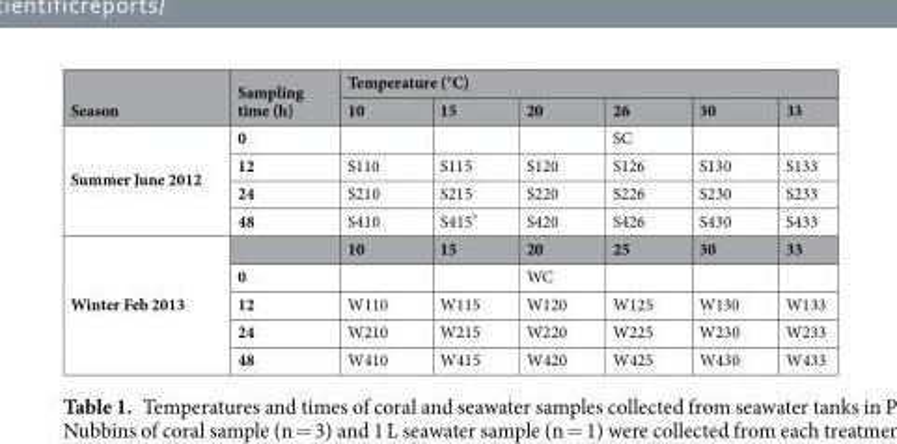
<table><thead><tr><td rowspan="2">Season</td><td rowspan="2">Sampling time (h)</td><td colspan="6">Temperature (°C)</td></tr><tr><td>10</td><td>15</td><td>20</td><td>26</td><td>30</td><td>33</td></tr></thead><tbody><tr><td rowspan="4">Summer June 2012</td><td>0</td><td></td><td></td><td></td><td>SC</td><td></td><td></td></tr><tr><td>12</td><td>S110</td><td>S115</td><td>S120</td><td>S126</td><td>S130</td><td>S133</td></tr><tr><td>24</td><td>S210</td><td>S215</td><td>S220</td><td>S226</td><td>S230</td><td>S233</td></tr><tr><td>48</td><td>S410</td><td>S415*</td><td>S420</td><td>S426</td><td>S430</td><td>S433</td></tr><tr><td rowspan="5">Winter Feb 2013</td><td></td><td>10</td><td>15</td><td>20</td><td>25</td><td>30</td><td>33</td></tr><tr><td>0</td><td></td><td></td><td>WC</td><td></td><td></td><td></td></tr><tr><td>12</td><td>W110</td><td>W115</td><td>W120</td><td>W125</td><td>W130</td><td>W133</td></tr><tr><td>24</td><td>W210</td><td>W215</td><td>W220</td><td>W225</td><td>W230</td><td>W233</td></tr><tr><td>48</td><td>W410</td><td>W415</td><td>W420</td><td>W425</td><td>W430</td><td>W433</td></tr></tbody></table>